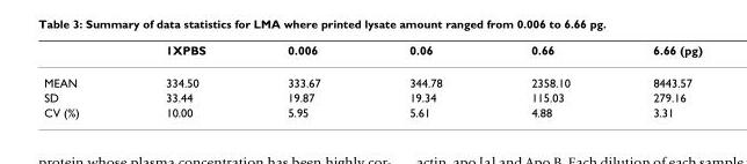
<table><thead><tr><td></td><td>1XPBS</td><td>0.006</td><td>0.06</td><td>0.66</td><td>6.66 (pg)</td></tr></thead><tbody><tr><td>MEAN</td><td>334.50</td><td>333.67</td><td>344.78</td><td>2358.10</td><td>8443.57</td></tr><tr><td>SD</td><td>33.44</td><td>19.87</td><td>19.34</td><td>115.03</td><td>279.16</td></tr><tr><td>CV (%)</td><td>10.00</td><td>5.95</td><td>5.61</td><td>4.88</td><td>3.31</td></tr></tbody></table>